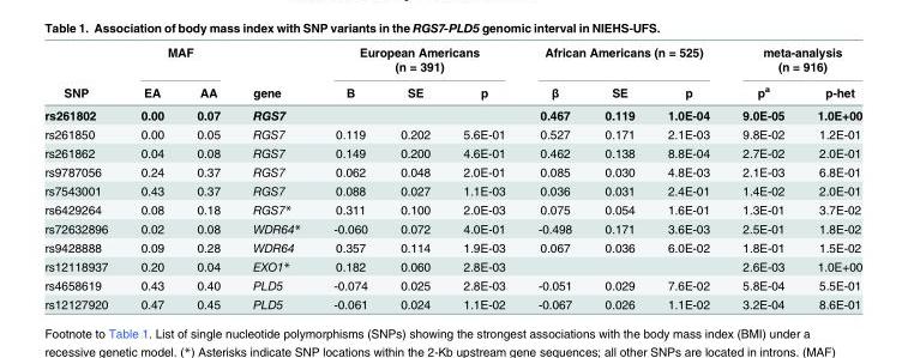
<table><thead><tr><td rowspan="2">SNP</td><td colspan="2">MAF</td><td rowspan="2">gene</td><td colspan="3">European Americans (n = 391)</td><td colspan="3">African Americans (n = 525)</td><td colspan="2">meta-analysis (n = 916)</td></tr><tr><td>EA</td><td>AA</td><td>Β</td><td>SE</td><td>p</td><td>β</td><td>SE</td><td>p</td><td>p<sup>a</sup></td><td>p-het</td></tr></thead><tbody><tr><td>rs261802</td><td>0.00</td><td>0.07</td><td>RGS7</td><td></td><td></td><td></td><td>0.467</td><td>0.119</td><td>1.0E-04</td><td>9.0E-05</td><td>1.0E+00</td></tr><tr><td>rs261850</td><td>0.00</td><td>0.05</td><td>RGS7</td><td>0.119</td><td>0.202</td><td>5.6E-01</td><td>0.527</td><td>0.171</td><td>2.1E-03</td><td>9.8E-02</td><td>1.2E-01</td></tr><tr><td>rs261862</td><td>0.04</td><td>0.08</td><td>RGS7</td><td>0.149</td><td>0.200</td><td>4.6E-01</td><td>0.462</td><td>0.138</td><td>8.8E-04</td><td>2.7E-02</td><td>2.0E-01</td></tr><tr><td>rs9787056</td><td>0.24</td><td>0.37</td><td>RGS7</td><td>0.062</td><td>0.048</td><td>2.0E-01</td><td>0.085</td><td>0.030</td><td>4.8E-03</td><td>2.1E-03</td><td>6.8E-01</td></tr><tr><td>rs7543001</td><td>0.43</td><td>0.37</td><td>RGS7</td><td>0.088</td><td>0.027</td><td>1.1E-03</td><td>0.036</td><td>0.031</td><td>2.4E-01</td><td>1.4E-02</td><td>2.0E-01</td></tr><tr><td>rs6429264</td><td>0.08</td><td>0.18</td><td>RGS7*</td><td>0.311</td><td>0.100</td><td>2.0E-03</td><td>0.075</td><td>0.054</td><td>1.6E-01</td><td>1.3E-01</td><td>3.7E-02</td></tr><tr><td>rs72632896</td><td>0.02</td><td>0.08</td><td>WDR64*</td><td>-0.060</td><td>0.072</td><td>4.0E-01</td><td>-0.498</td><td>0.171</td><td>3.6E-03</td><td>2.5E-01</td><td>1.8E-02</td></tr><tr><td>rs9428888</td><td>0.09</td><td>0.28</td><td>WDR64</td><td>0.357</td><td>0.114</td><td>1.9E-03</td><td>0.067</td><td>0.036</td><td>6.0E-02</td><td>1.8E-01</td><td>1.5E-02</td></tr><tr><td>rs12118937</td><td>0.20</td><td>0.04</td><td>EXO1*</td><td>0.182</td><td>0.060</td><td>2.8E-03</td><td></td><td></td><td></td><td>2.6E-03</td><td>1.0E+00</td></tr><tr><td>rs4658619</td><td>0.43</td><td>0.40</td><td>PLD5</td><td>-0.074</td><td>0.025</td><td>2.8E-03</td><td>-0.051</td><td>0.029</td><td>7.6E-02</td><td>5.8E-04</td><td>5.5E-01</td></tr><tr><td>rs12127920</td><td>0.47</td><td>0.45</td><td>PLD5</td><td>-0.061</td><td>0.024</td><td>1.1E-02</td><td>-0.067</td><td>0.026</td><td>1.1E-02</td><td>3.2E-04</td><td>8.6E-01</td></tr></tbody></table>